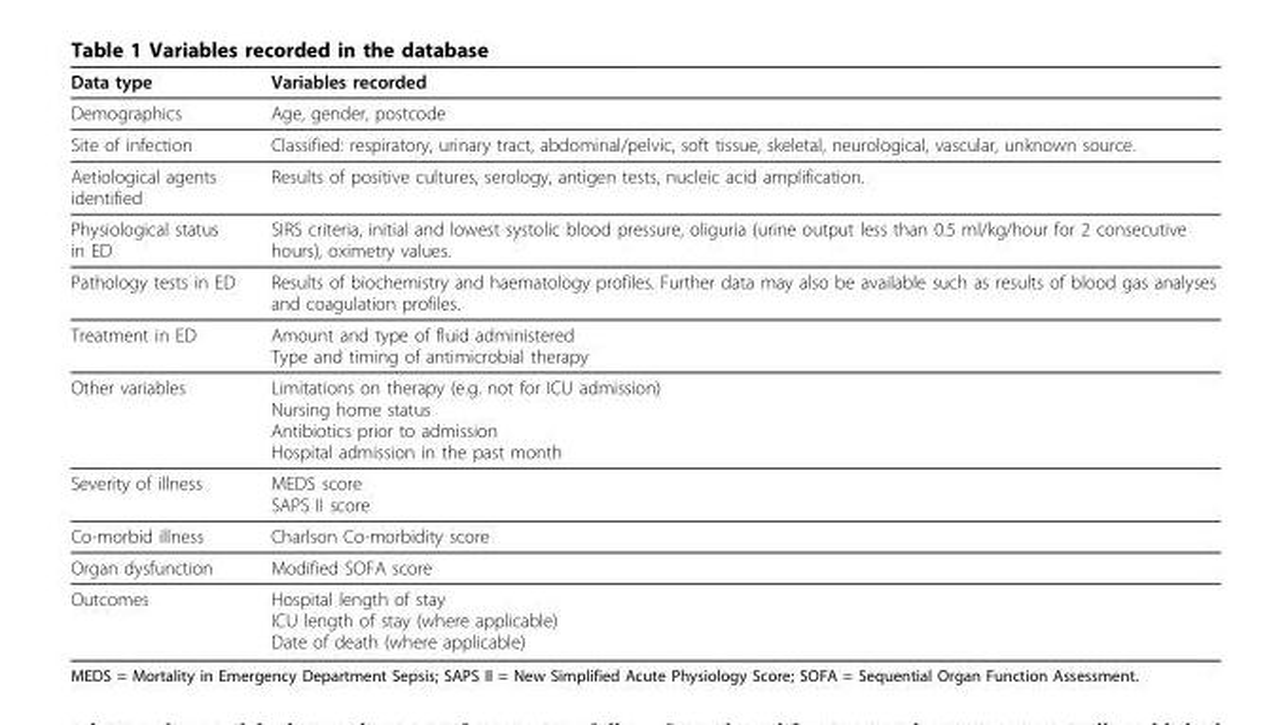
<table><thead><tr><td>Data type</td><td>Variables recorded</td></tr></thead><tbody><tr><td>Demographics</td><td>Age, gender, postcode</td></tr><tr><td>Site of infection</td><td>Classified: respiratory, urinary tract, abdominal/pelvic, soft tissue, skeletal, neurological, vascular, unknown source.</td></tr><tr><td>Aetiological agents identified</td><td>Results of positive cultures, serology, antigen tests, nucleic acid amplification.</td></tr><tr><td>Physiological status in ED</td><td>SIRS criteria, initial and lowest systolic blood pressure, oliguria (urine output less than 0.5 ml/kg/hour for 2 consecutive hours), oximetry values.</td></tr><tr><td>Pathology tests in ED</td><td>Results of biochemistry and haematology profiles. Further data may also be available such as results of blood gas analyses and coagulation profiles.</td></tr><tr><td>Treatment in ED</td><td>Amount and type of fluid administered Type and timing of antimicrobial therapy</td></tr><tr><td>Other variables</td><td>Limitations on therapy (e.g. not for ICU admission) Nursing home status Antibiotics prior to admission Hospital admission in the past month</td></tr><tr><td>Severity of illness</td><td>MEDS score SAPS II score</td></tr><tr><td>Co-morbid illness</td><td>Charlson Co-morbidity score</td></tr><tr><td>Organ dysfunction</td><td>Modified SOFA score</td></tr><tr><td>Outcomes</td><td>Hospital length of stay ICU length of stay (where applicable) Date of death (where applicable)</td></tr></tbody></table>